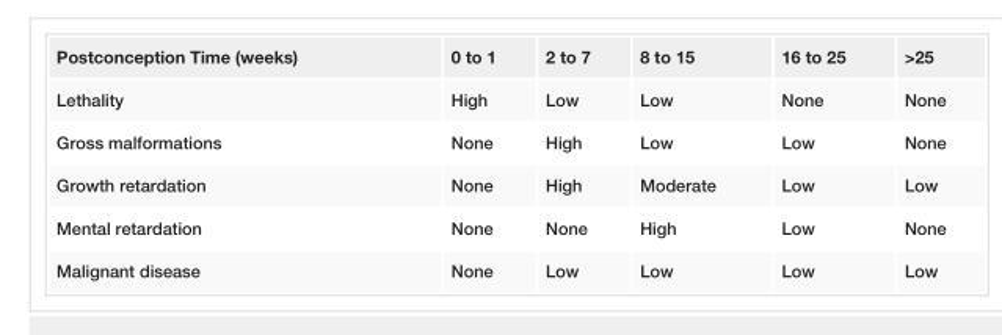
<table><tbody><tr><td>Postconception Time (weeks)</td><td>0 to 1</td><td>2 to 7</td><td>8 to 15</td><td>16 to 25</td><td>&gt;25</td></tr><tr><td>Lethality</td><td>High</td><td>Low</td><td>Low</td><td>None</td><td>None</td></tr><tr><td>Gross malformations</td><td>None</td><td>High</td><td>Low</td><td>Low</td><td>None</td></tr><tr><td>Growth retardation</td><td>None</td><td>High</td><td>Moderate</td><td>Low</td><td>Low</td></tr><tr><td>Mental retardation</td><td>None</td><td>None</td><td>High</td><td>Low</td><td>None</td></tr><tr><td>Malignant disease</td><td>None</td><td>Low</td><td>Low</td><td>Low</td><td>Low</td></tr></tbody></table>